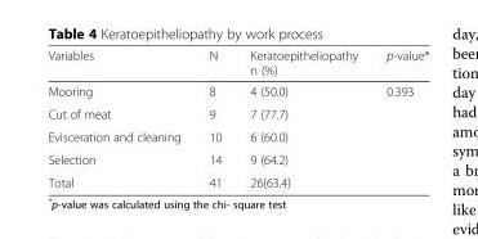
<table><thead><tr><td>Variables</td><td>N</td><td>Keratoepitheliopathy n (%)</td><td>p-value*</td></tr></thead><tbody><tr><td>Mooring</td><td>8</td><td>4 (50.0)</td><td rowspan="4">0.393</td></tr><tr><td>Cut of meat</td><td>9</td><td>7 (77.7)</td></tr><tr><td>Evisceration and cleaning</td><td>10</td><td>6 (60.0)</td></tr><tr><td>Selection</td><td>14</td><td>9 (64.2)</td></tr><tr><td>Total</td><td>41</td><td>26(63.4)</td><td></td></tr></tbody></table>